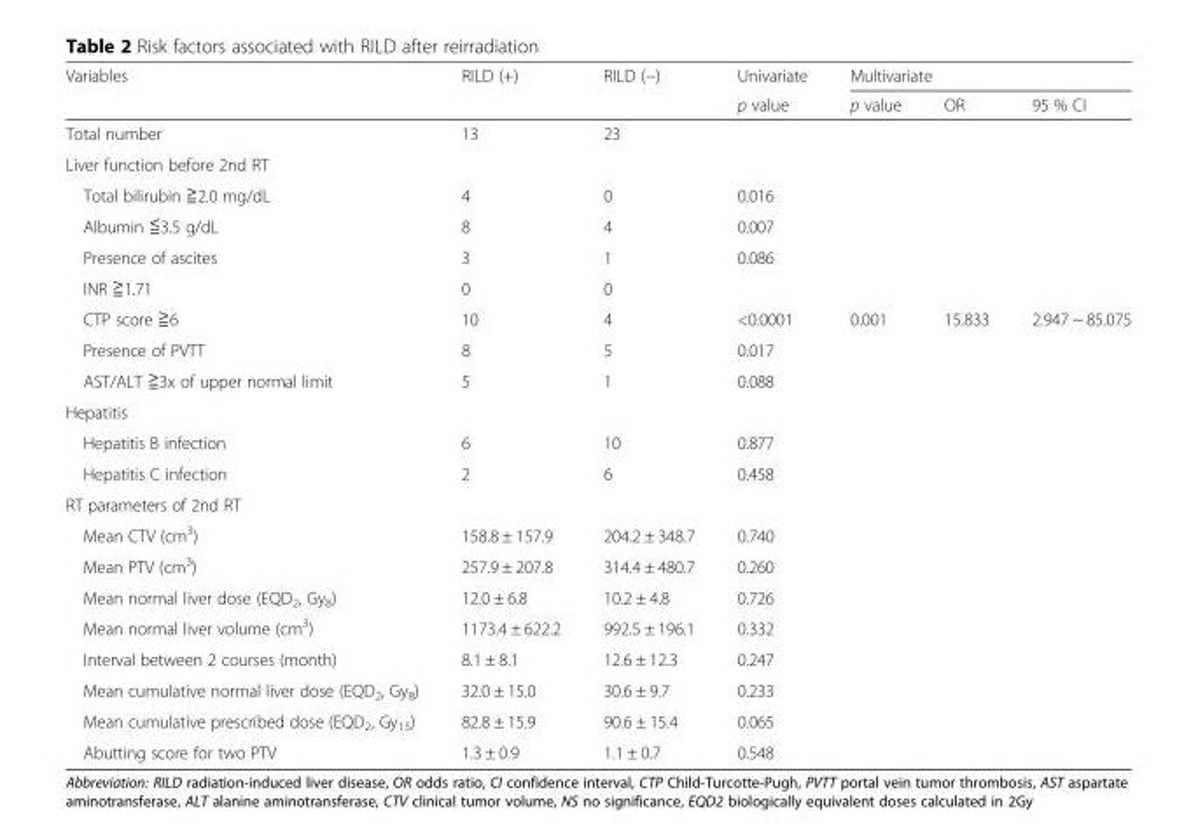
<table><thead><tr><td rowspan="2">Variables</td><td rowspan="2">RILD (+)</td><td rowspan="2">RILD (−)</td><td rowspan="2">Univariate p value</td><td colspan="3">Multivariate</td></tr><tr><td>p value</td><td>OR</td><td>95 % CI</td></tr></thead><tbody><tr><td>Total number</td><td>13</td><td>23</td><td></td><td></td><td></td><td></td></tr><tr><td colspan="7">Liver function before 2nd RT</td></tr><tr><td>Total bilirubin ≧2.0 mg/dL</td><td>4</td><td>0</td><td>0.016</td><td></td><td></td><td></td></tr><tr><td>Albumin ≦3.5 g/dL</td><td>8</td><td>4</td><td>0.007</td><td></td><td></td><td></td></tr><tr><td>Presence of ascites</td><td>3</td><td>1</td><td>0.086</td><td></td><td></td><td></td></tr><tr><td>INR ≧1.71</td><td>0</td><td>0</td><td></td><td></td><td></td><td></td></tr><tr><td>CTP score ≧6</td><td>10</td><td>4</td><td>&lt;0.0001</td><td>0.001</td><td>15.833</td><td>2.947 ~ 85.075</td></tr><tr><td>Presence of PVTT</td><td>8</td><td>5</td><td>0.017</td><td></td><td></td><td></td></tr><tr><td>AST/ALT ≧3x of upper normal limit</td><td>5</td><td>1</td><td>0.088</td><td></td><td></td><td></td></tr><tr><td colspan="7">Hepatitis</td></tr><tr><td>Hepatitis B infection</td><td>6</td><td>10</td><td>0.877</td><td></td><td></td><td></td></tr><tr><td>Hepatitis C infection</td><td>2</td><td>6</td><td>0.458</td><td></td><td></td><td></td></tr><tr><td colspan="7">RT parameters of 2nd RT</td></tr><tr><td>Mean CTV (cm<sup>3</sup>)</td><td>158.8 ± 157.9</td><td>204.2 ± 348.7</td><td>0.740</td><td></td><td></td><td></td></tr><tr><td>Mean PTV (cm<sup>3</sup>)</td><td>257.9 ± 207.8</td><td>314.4 ± 480.7</td><td>0.260</td><td></td><td></td><td></td></tr><tr><td>Mean normal liver dose (EQD<sub>2</sub>, Gy<sub>8</sub>)</td><td>12.0 ± 6.8</td><td>10.2 ± 4.8</td><td>0.726</td><td></td><td></td><td></td></tr><tr><td>Mean normal liver volume (cm<sup>3</sup>)</td><td>1173.4 ± 622.2</td><td>992.5 ± 196.1</td><td>0.332</td><td></td><td></td><td></td></tr><tr><td>Interval between 2 courses (month)</td><td>8.1 ± 8.1</td><td>12.6 ± 12.3</td><td>0.247</td><td></td><td></td><td></td></tr><tr><td>Mean cumulative normal liver dose (EQD<sub>2</sub>, Gy<sub>8</sub>)</td><td>32.0 ± 15.0</td><td>30.6 ± 9.7</td><td>0.233</td><td></td><td></td><td></td></tr><tr><td>Mean cumulative prescribed dose (EQD<sub>2</sub>, Gy<sub>15</sub>)</td><td>82.8 ± 15.9</td><td>90.6 ± 15.4</td><td>0.065</td><td></td><td></td><td></td></tr><tr><td>Abutting score for two PTV</td><td>1.3 ± 0.9</td><td>1.1 ± 0.7</td><td>0.548</td><td></td><td></td><td></td></tr></tbody></table>